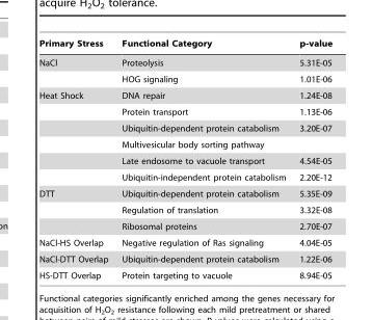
<table><thead><tr><td>Primary Stress</td><td>Functional Category</td><td>p-value</td></tr></thead><tbody><tr><td rowspan="2">NaCl</td><td>Proteolysis</td><td>5.31E-05</td></tr><tr><td>HOG signaling</td><td>1.01E-06</td></tr><tr><td rowspan="6">Heat Shock</td><td>DNA repair</td><td>1.24E-08</td></tr><tr><td>Protein transport</td><td>1.13E-06</td></tr><tr><td>Ubiquitin-dependent protein catabolism</td><td>3.20E-07</td></tr><tr><td>Multivesicular body sorting pathway</td><td></td></tr><tr><td>Late endosome to vacuole transport</td><td>4.54E-05</td></tr><tr><td>Ubiquitin-independent protein catabolism</td><td>2.20E-12</td></tr><tr><td rowspan="3">DTT</td><td>Ubiquitin-dependent protein catabolism</td><td>5.35E-09</td></tr><tr><td>Regulation of translation</td><td>3.32E-08</td></tr><tr><td>Ribosomal proteins</td><td>2.70E-07</td></tr><tr><td>NaCl-HS Overlap</td><td>Negative regulation of Ras signaling</td><td>4.04E-05</td></tr><tr><td>NaCl-DTT Overlap</td><td>Ubiquitin-dependent protein catabolism</td><td>1.22E-06</td></tr><tr><td>HS-DTT Overlap</td><td>Protein targeting to vacuole</td><td>8.94E-05</td></tr></tbody></table>